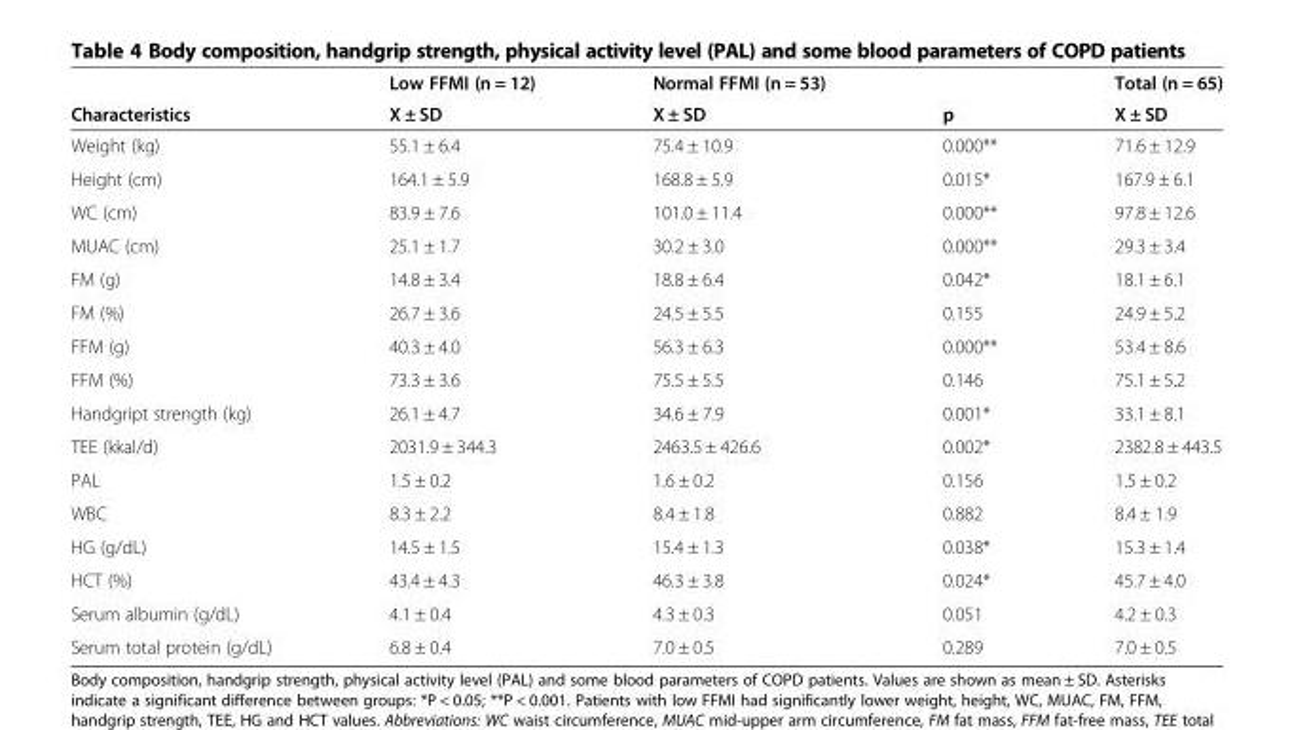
<table><thead><tr><td rowspan="2">Characteristics</td><td rowspan="2">Low FFMI (n = 12) X ± SD</td><td rowspan="2">Normal FFMI (n = 53) X ± SD</td><td rowspan="2">p</td><td rowspan="2">Total (n = 65) X ± SD</td></tr><tr></tr></thead><tbody><tr><td>Weight (kg)</td><td>55.1 ± 6.4</td><td>75.4 ± 10.9</td><td>0.000**</td><td>71.6 ± 12.9</td></tr><tr><td>Height (cm)</td><td>164.1 ± 5.9</td><td>168.8 ± 5.9</td><td>0.015*</td><td>167.9 ± 6.1</td></tr><tr><td>WC (cm)</td><td>83.9 ± 7.6</td><td>101.0 ± 11.4</td><td>0.000**</td><td>97.8 ± 12.6</td></tr><tr><td>MUAC (cm)</td><td>25.1 ± 1.7</td><td>30.2 ± 3.0</td><td>0.000**</td><td>29.3 ± 3.4</td></tr><tr><td>FM (g)</td><td>14.8 ± 3.4</td><td>18.8 ± 6.4</td><td>0.042*</td><td>18.1 ± 6.1</td></tr><tr><td>FM (%)</td><td>26.7 ± 3.6</td><td>24.5 ± 5.5</td><td>0.155</td><td>24.9 ± 5.2</td></tr><tr><td>FFM (g)</td><td>40.3 ± 4.0</td><td>56.3 ± 6.3</td><td>0.000**</td><td>53.4 ± 8.6</td></tr><tr><td>FFM (%)</td><td>73.3 ± 3.6</td><td>75.5 ± 5.5</td><td>0.146</td><td>75.1 ± 5.2</td></tr><tr><td>Handgript strength (kg)</td><td>26.1 ± 4.7</td><td>34.6 ± 7.9</td><td>0.001*</td><td>33.1 ± 8.1</td></tr><tr><td>TEE (kkal/d)</td><td>2031.9 ± 344.3</td><td>2463.5 ± 426.6</td><td>0.002*</td><td>2382.8 ± 443.5</td></tr><tr><td>PAL</td><td>1.5 ± 0.2</td><td>1.6 ± 0.2</td><td>0.156</td><td>1.5 ± 0.2</td></tr><tr><td>WBC</td><td>8.3 ± 2.2</td><td>8.4 ± 1.8</td><td>0.882</td><td>8.4 ± 1.9</td></tr><tr><td>HG (g/dL)</td><td>14.5 ± 1.5</td><td>15.4 ± 1.3</td><td>0.038*</td><td>15.3 ± 1.4</td></tr><tr><td>HCT (%)</td><td>43.4 ± 4.3</td><td>46.3 ± 3.8</td><td>0.024*</td><td>45.7 ± 4.0</td></tr><tr><td>Serum albumin (g/dL)</td><td>4.1 ± 0.4</td><td>4.3 ± 0.3</td><td>0.051</td><td>4.2 ± 0.3</td></tr><tr><td>Serum total protein (g/dL)</td><td>6.8 ± 0.4</td><td>7.0 ± 0.5</td><td>0.289</td><td>7.0 ± 0.5</td></tr></tbody></table>